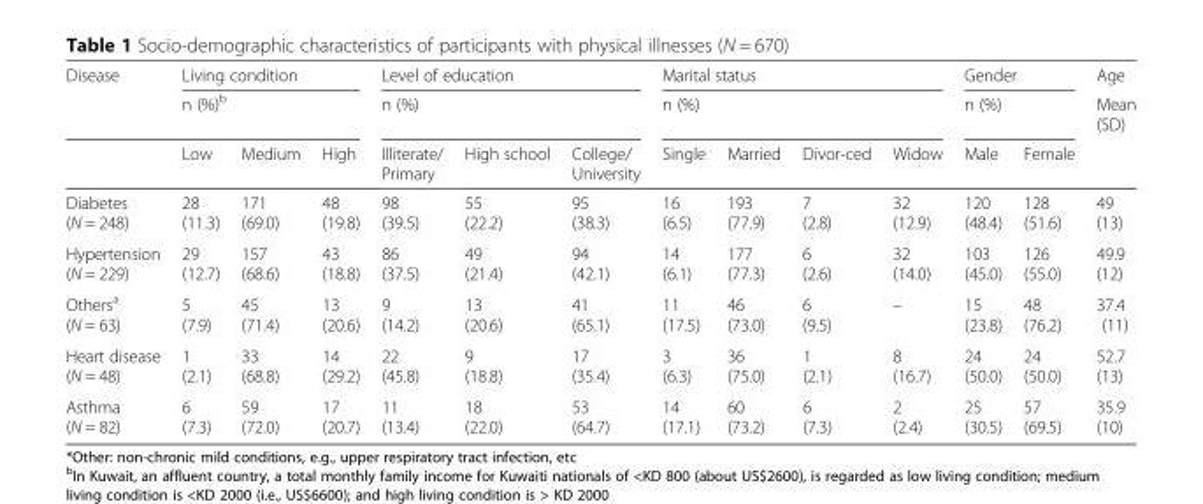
<table><thead><tr><td rowspan="3">Disease</td><td rowspan="2" colspan="3">Living condition n (%)<sup>b</sup></td><td rowspan="2" colspan="3">Level of education n (%)</td><td rowspan="2" colspan="4">Marital status n (%)</td><td rowspan="2" colspan="2">Gender n (%)</td><td rowspan="3">Age Mean (SD)</td></tr><tr></tr><tr><td>Low</td><td>Medium</td><td>High</td><td>Illiterate/ Primary</td><td>High school</td><td>College/ University</td><td>Single</td><td>Married</td><td>Divor-ced</td><td>Widow</td><td>Male</td><td>Female</td></tr></thead><tbody><tr><td>Diabetes (N = 248)</td><td>28 (11.3)</td><td>171 (69.0)</td><td>48 (19.8)</td><td>98 (39.5)</td><td>55 (22.2)</td><td>95 (38.3)</td><td>16 (6.5)</td><td>193 (77.9)</td><td>7 (2.8)</td><td>32 (12.9)</td><td>120 (48.4)</td><td>128 (51.6)</td><td>49 (13)</td></tr><tr><td>Hypertension (N = 229)</td><td>29 (12.7)</td><td>157 (68.6)</td><td>43 (18.8)</td><td>86 (37.5)</td><td>49 (21.4)</td><td>94 (42.1)</td><td>14 (6.1)</td><td>177 (77.3)</td><td>6 (2.6)</td><td>32 (14.0)</td><td>103 (45.0)</td><td>126 (55.0)</td><td>49.9 (12)</td></tr><tr><td>Others<sup>a</sup> (N = 63)</td><td>5 (7.9)</td><td>45 (71.4)</td><td>13 (20.6)</td><td>9 (14.2)</td><td>13 (20.6)</td><td>41 (65.1)</td><td>11 (17.5)</td><td>46 (73.0)</td><td>6 (9.5)</td><td>–</td><td>15 (23.8)</td><td>48 (76.2)</td><td>37.4 (11)</td></tr><tr><td>Heart disease (N = 48)</td><td>1 (2.1)</td><td>33 (68.8)</td><td>14 (29.2)</td><td>22 (45.8)</td><td>9 (18.8)</td><td>17 (35.4)</td><td>3 (6.3)</td><td>36 (75.0)</td><td>1 (2.1)</td><td>8 (16.7)</td><td>24 (50.0)</td><td>24 (50.0)</td><td>52.7 (13)</td></tr><tr><td>Asthma (N = 82)</td><td>6 (7.3)</td><td>59 (72.0)</td><td>17 (20.7)</td><td>11 (13.4)</td><td>18 (22.0)</td><td>53 (64.7)</td><td>14 (17.1)</td><td>60 (73.2)</td><td>6 (7.3)</td><td>2 (2.4)</td><td>25 (30.5)</td><td>57 (69.5)</td><td>35.9 (10)</td></tr></tbody></table>